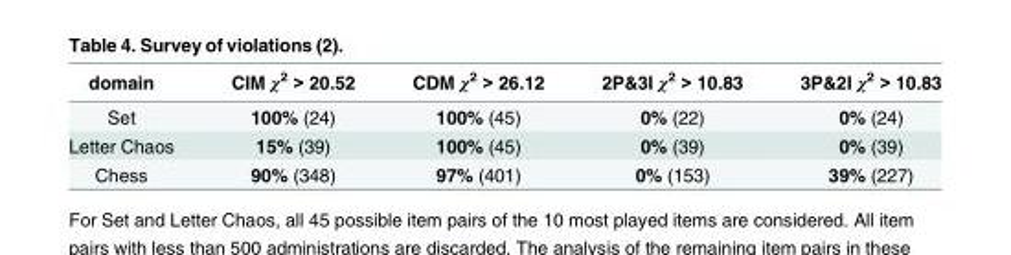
<table><thead><tr><td>domain</td><td>CIM χ<sup>2</sup> &gt; 20.52</td><td>CDM χ<sup>2</sup> &gt; 26.12</td><td>2P&amp;3I χ<sup>2</sup> &gt; 10.83</td><td>3P&amp;2I χ<sup>2</sup> &gt; 10.83</td></tr></thead><tbody><tr><td>Set</td><td>100% (24)</td><td>100% (45)</td><td>0% (22)</td><td>0% (24)</td></tr><tr><td>Letter Chaos</td><td>15% (39)</td><td>100% (45)</td><td>0% (39)</td><td>0% (39)</td></tr><tr><td>Chess</td><td>90% (348)</td><td>97% (401)</td><td>0% (153)</td><td>39% (227)</td></tr></tbody></table>